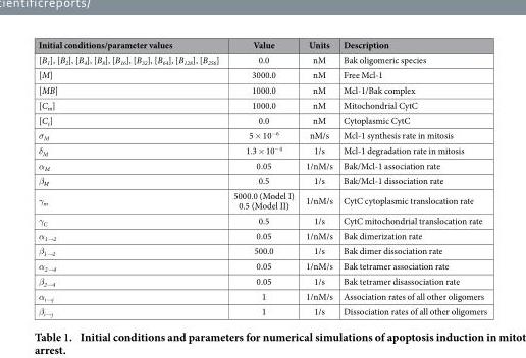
<table><thead><tr><td>Initial conditions/parameter values</td><td>Value</td><td>Units</td><td>Description</td></tr></thead><tbody><tr><td>[B<sub>1</sub>], [B<sub>2</sub>], [B<sub>4</sub>], [B<sub>8</sub>], [B<sub>16</sub>], [B<sub>32</sub>], [B<sub>64</sub>], [B<sub>128</sub>], [B<sub>256</sub>]</td><td>0.0</td><td>nM</td><td>Bak oligomeric species</td></tr><tr><td>[M]</td><td>3000.0</td><td>nM</td><td>Free Mcl-1</td></tr><tr><td>[MB]</td><td>1000.0</td><td>nM</td><td>Mcl-1/Bak complex</td></tr><tr><td>[C<sub>m</sub>]</td><td>1000.0</td><td>nM</td><td>Mitochondrial CytC</td></tr><tr><td>[C<sub>c</sub>]</td><td>0.0</td><td>nM</td><td>Cytoplasmic CytC</td></tr><tr><td>σ<sub>M</sub></td><td>5 × 10<sup>−6</sup></td><td>nM/s</td><td>Mcl-1 synthesis rate in mitosis</td></tr><tr><td>δ<sub>M</sub></td><td>1.3 × 10<sup>−4</sup></td><td>1/s</td><td>Mcl-1 degradation rate in mitosis</td></tr><tr><td>α<sub>M</sub></td><td>0.05</td><td>1/nM/s</td><td>Bak/Mcl-1 association rate</td></tr><tr><td>β<sub>M</sub></td><td>0.5</td><td>1/s</td><td>Bak/Mcl-1 dissociation rate</td></tr><tr><td>γ<sub>m</sub></td><td>5000.0 (Model I) 0.5 (Model II)</td><td>1/nM/s</td><td>CytC cytoplasmic translocation rate</td></tr><tr><td>γ<sub>C</sub></td><td>0.5</td><td>1/s</td><td>CytC mitochondrial translocation rate</td></tr><tr><td>α<sub>1→2</sub></td><td>0.05</td><td>1/nM/s</td><td>Bak dimerization rate</td></tr><tr><td>β<sub>1→2</sub></td><td>500.0</td><td>1/s</td><td>Bak dimer dissociation rate</td></tr><tr><td>α<sub>2→4</sub></td><td>0.05</td><td>1/nM/s</td><td>Bak tetramer association rate</td></tr><tr><td>β<sub>2→4</sub></td><td>0.05</td><td>1/s</td><td>Bak tetramer disassociation rate</td></tr><tr><td>α<sub>i→j</sub></td><td>1</td><td>1/nM/s</td><td>Association rates of all other oligomers</td></tr><tr><td>β<sub>i→j</sub></td><td>1</td><td>1/s</td><td>Dissociation rates of all other oligomers</td></tr></tbody></table>